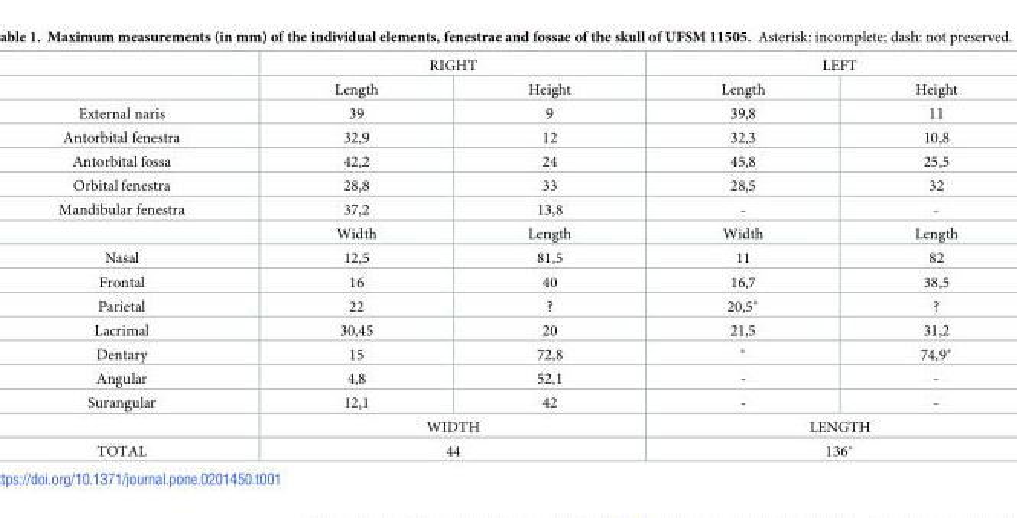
<table><thead><tr><td rowspan="2"></td><td colspan="2">RIGHT</td><td colspan="2">LEFT</td></tr><tr><td>Length</td><td>Height</td><td>Length</td><td>Height</td></tr></thead><tbody><tr><td>External naris</td><td>39</td><td>9</td><td>39,8</td><td>11</td></tr><tr><td>Antorbital fenestra</td><td>32,9</td><td>12</td><td>32,3</td><td>10,8</td></tr><tr><td>Antorbital fossa</td><td>42,2</td><td>24</td><td>45,8</td><td>25,5</td></tr><tr><td>Orbital fenestra</td><td>28,8</td><td>33</td><td>28,5</td><td>32</td></tr><tr><td rowspan="2">Mandibular fenestra</td><td>37,2</td><td>13,8</td><td>-</td><td>-</td></tr><tr><td>Width</td><td>Length</td><td>Width</td><td>Length</td></tr><tr><td>Nasal</td><td>12,5</td><td>81,5</td><td>11</td><td>82</td></tr><tr><td>Frontal</td><td>16</td><td>40</td><td>16,7</td><td>38,5</td></tr><tr><td>Parietal</td><td>22</td><td>?</td><td>20,5*</td><td>?</td></tr><tr><td>Lacrimal</td><td>30,45</td><td>20</td><td>21,5</td><td>31,2</td></tr><tr><td>Dentary</td><td>15</td><td>72,8</td><td>*</td><td>74,9*</td></tr><tr><td>Angular</td><td>4,8</td><td>52,1</td><td>-</td><td>-</td></tr><tr><td rowspan="2">Surangular</td><td>12,1</td><td>42</td><td>-</td><td>-</td></tr><tr><td colspan="2">WIDTH</td><td colspan="2">LENGTH</td></tr><tr><td>TOTAL</td><td colspan="2">44</td><td colspan="2">136*</td></tr></tbody></table>